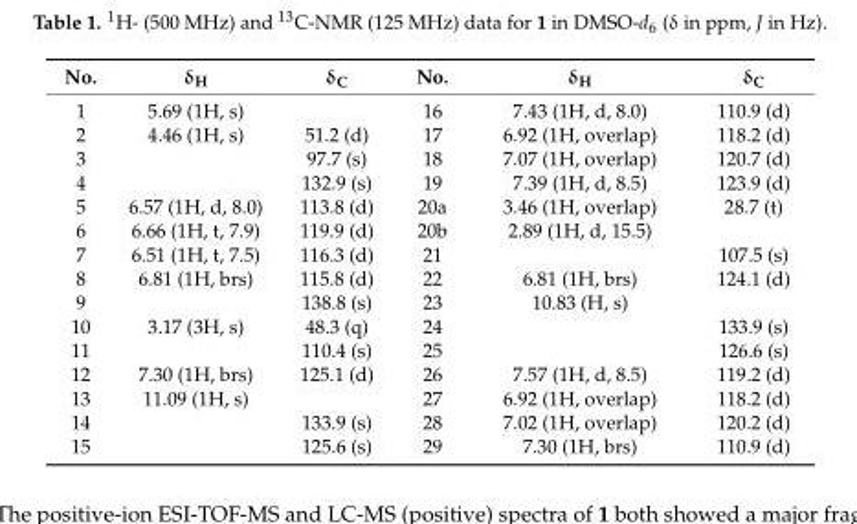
<table><thead><tr><td>No.</td><td>δH</td><td>δC</td><td>No.</td><td>δH</td><td>δC</td></tr></thead><tbody><tr><td>1</td><td>5.69 (1H, s)</td><td></td><td>16</td><td>7.43 (1H, d, 8.0)</td><td>110.9 (d)</td></tr><tr><td>2</td><td>4.46 (1H, s)</td><td>51.2 (d)</td><td>17</td><td>6.92 (1H, overlap)</td><td>118.2 (d)</td></tr><tr><td>3</td><td></td><td>97.7 (s)</td><td>18</td><td>7.07 (1H, overlap)</td><td>120.7 (d)</td></tr><tr><td>4</td><td></td><td>132.9 (s)</td><td>19</td><td>7.39 (1H, d, 8.5)</td><td>123.9 (d)</td></tr><tr><td>5</td><td>6.57 (1H, d, 8.0)</td><td>113.8 (d)</td><td>20a</td><td>3.46 (1H, overlap)</td><td>28.7 (t)</td></tr><tr><td>6</td><td>6.66 (1H, t, 7.9)</td><td>119.9 (d)</td><td>20b</td><td>2.89 (1H, d, 15.5)</td><td></td></tr><tr><td>7</td><td>6.51 (1H, t, 7.5)</td><td>116.3 (d)</td><td>21</td><td></td><td>107.5 (s)</td></tr><tr><td>8</td><td>6.81 (1H, brs)</td><td>115.8 (d)</td><td>22</td><td>6.81 (1H, brs)</td><td>124.1 (d)</td></tr><tr><td>9</td><td></td><td>138.8 (s)</td><td>23</td><td>10.83 (H, s)</td><td></td></tr><tr><td>10</td><td>3.17 (3H, s)</td><td>48.3 (q)</td><td>24</td><td></td><td>133.9 (s)</td></tr><tr><td>11</td><td></td><td>110.4 (s)</td><td>25</td><td></td><td>126.6 (s)</td></tr><tr><td>12</td><td>7.30 (1H, brs)</td><td>125.1 (d)</td><td>26</td><td>7.57 (1H, d, 8.5)</td><td>119.2 (d)</td></tr><tr><td>13</td><td>11.09 (1H, s)</td><td></td><td>27</td><td>6.92 (1H, overlap)</td><td>118.2 (d)</td></tr><tr><td>14</td><td></td><td>133.9 (s)</td><td>28</td><td>7.02 (1H, overlap)</td><td>120.2 (d)</td></tr><tr><td>15</td><td></td><td>125.6 (s)</td><td>29</td><td>7.30 (1H, brs)</td><td>110.9 (d)</td></tr></tbody></table>